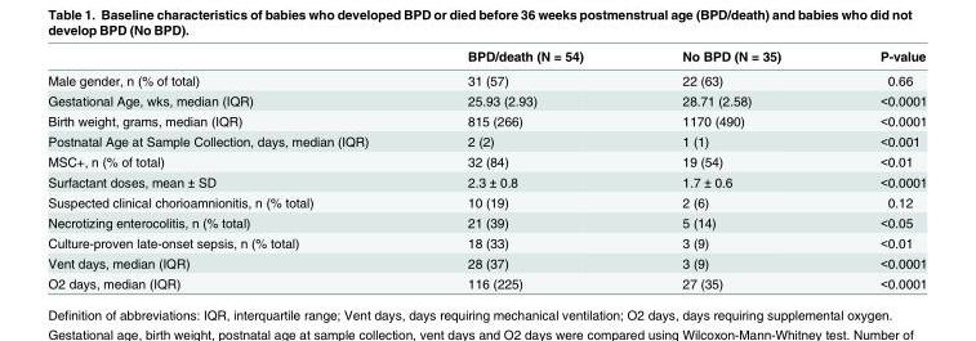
<table><thead><tr><td></td><td>BPD/death (N = 54)</td><td>No BPD (N = 35)</td><td>P-value</td></tr></thead><tbody><tr><td>Male gender, n (% of total)</td><td>31 (57)</td><td>22 (63)</td><td>0.66</td></tr><tr><td>Gestational Age, wks, median (IQR)</td><td>25.93 (2.93)</td><td>28.71 (2.58)</td><td>&lt;0.0001</td></tr><tr><td>Birth weight, grams, median (IQR)</td><td>815 (266)</td><td>1170 (490)</td><td>&lt;0.0001</td></tr><tr><td>Postnatal Age at Sample Collection, days, median (IQR)</td><td>2 (2)</td><td>1 (1)</td><td>&lt;0.001</td></tr><tr><td>MSC+, n (% of total)</td><td>32 (84)</td><td>19 (54)</td><td>&lt;0.01</td></tr><tr><td>Surfactant doses, mean ± SD</td><td>2.3 ± 0.8</td><td>1.7 ± 0.6</td><td>&lt;0.0001</td></tr><tr><td>Suspected clinical chorioamnionitis, n (% total)</td><td>10 (19)</td><td>2 (6)</td><td>0.12</td></tr><tr><td>Necrotizing enterocolitis, n (% total)</td><td>21 (39)</td><td>5 (14)</td><td>&lt;0.05</td></tr><tr><td>Culture-proven late-onset sepsis, n (% total)</td><td>18 (33)</td><td>3 (9)</td><td>&lt;0.01</td></tr><tr><td>Vent days, median (IQR)</td><td>28 (37)</td><td>3 (9)</td><td>&lt;0.0001</td></tr><tr><td>O2 days, median (IQR)</td><td>116 (225)</td><td>27 (35)</td><td>&lt;0.0001</td></tr></tbody></table>